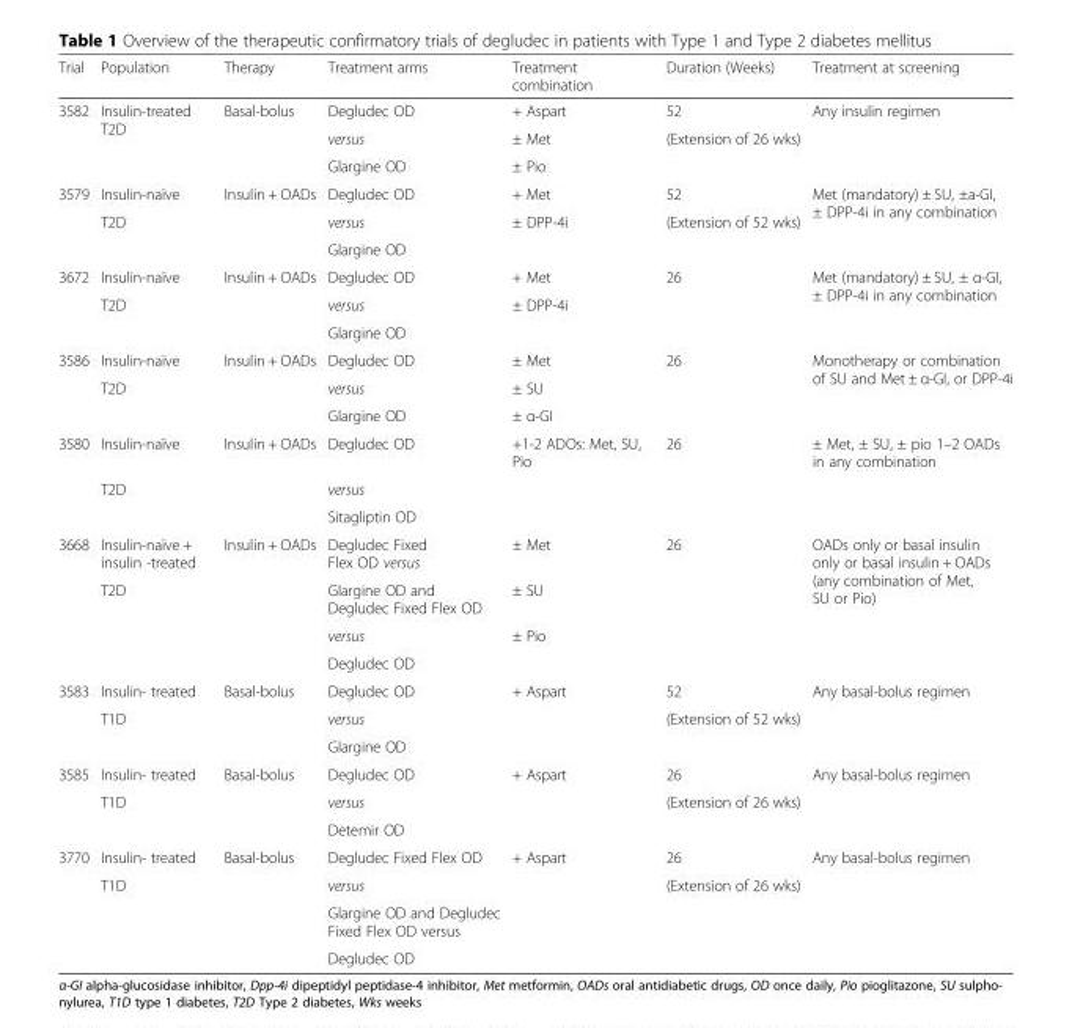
<table><thead><tr><td>Trial</td><td>Population</td><td>Therapy</td><td>Treatment arms</td><td>Treatment combination</td><td>Duration (Weeks)</td><td>Treatment at screening</td></tr></thead><tbody><tr><td rowspan="3">3582</td><td rowspan="3">Insulin-treated T2D</td><td rowspan="3">Basal-bolus</td><td>Degludec OD</td><td>+ Aspart</td><td>52</td><td rowspan="3">Any insulin regimen</td></tr><tr><td>versus</td><td>± Met</td><td>(Extension of 26 wks)</td></tr><tr><td>Glargine OD</td><td>± Pio</td><td></td></tr><tr><td rowspan="3">3579</td><td>Insulin-naïve</td><td>Insulin + OADs</td><td>Degludec OD</td><td>+ Met</td><td>52</td><td rowspan="3">Met (mandatory) ± SU, ±a-GI, ± DPP-4i in any combination</td></tr><tr><td rowspan="2">T2D</td><td rowspan="2"></td><td>versus</td><td rowspan="2">± DPP-4i</td><td rowspan="2">(Extension of 52 wks)</td></tr><tr><td>Glargine OD</td></tr><tr><td rowspan="3">3672</td><td>Insulin-naïve</td><td>Insulin + OADs</td><td>Degludec OD</td><td>+ Met</td><td rowspan="3">26</td><td rowspan="3">Met (mandatory) ± SU, ± α-GI, ± DPP-4i in any combination</td></tr><tr><td rowspan="2">T2D</td><td rowspan="2"></td><td>versus</td><td>± DPP-4i</td></tr><tr><td>Glargine OD</td><td></td></tr><tr><td rowspan="3">3586</td><td>Insulin-naïve</td><td>Insulin + OADs</td><td>Degludec OD</td><td>± Met</td><td rowspan="3">26</td><td rowspan="3">Monotherapy or combination of SU and Met ± α-GI, or DPP-4i</td></tr><tr><td rowspan="2">T2D</td><td rowspan="2"></td><td>versus</td><td>± SU</td></tr><tr><td>Glargine OD</td><td>± α-GI</td></tr><tr><td rowspan="3">3580</td><td>Insulin-naïve</td><td>Insulin + OADs</td><td>Degludec OD</td><td>+1-2 ADOs: Met, SU, Pio</td><td rowspan="3">26</td><td rowspan="3">± Met, ± SU, ± pio 1–2 OADs in any combination</td></tr><tr><td rowspan="2">T2D</td><td rowspan="2"></td><td>versus</td><td rowspan="2"></td></tr><tr><td>Sitagliptin OD</td></tr><tr><td rowspan="4">3668</td><td>Insulin-naïve + insulin -treated</td><td>Insulin + OADs</td><td>Degludec Fixed Flex OD versus</td><td>± Met</td><td rowspan="4">26</td><td rowspan="4">OADs only or basal insulin only or basal insulin + OADs (any combination of Met, SU or Pio)</td></tr><tr><td rowspan="3">T2D</td><td rowspan="3"></td><td>Glargine OD and Degludec Fixed Flex OD</td><td>± SU</td></tr><tr><td>versus</td><td rowspan="2">± Pio</td></tr><tr><td>Degludec OD</td></tr><tr><td rowspan="3">3583</td><td>Insulin- treated</td><td>Basal-bolus</td><td>Degludec OD</td><td>+ Aspart</td><td>52</td><td rowspan="3">Any basal-bolus regimen</td></tr><tr><td rowspan="2">T1D</td><td rowspan="2"></td><td>versus</td><td rowspan="2"></td><td rowspan="2">(Extension of 52 wks)</td></tr><tr><td>Glargine OD</td></tr><tr><td rowspan="3">3585</td><td>Insulin- treated</td><td>Basal-bolus</td><td>Degludec OD</td><td>+ Aspart</td><td>26</td><td rowspan="3">Any basal-bolus regimen</td></tr><tr><td rowspan="2">T1D</td><td rowspan="2"></td><td>versus</td><td rowspan="2"></td><td rowspan="2">(Extension of 26 wks)</td></tr><tr><td>Detemir OD</td></tr><tr><td rowspan="4">3770</td><td>Insulin- treated</td><td>Basal-bolus</td><td>Degludec Fixed Flex OD</td><td>+ Aspart</td><td>26</td><td rowspan="4">Any basal-bolus regimen</td></tr><tr><td rowspan="3">T1D</td><td rowspan="3"></td><td>versus</td><td rowspan="3"></td><td rowspan="3">(Extension of 26 wks)</td></tr><tr><td>Glargine OD and Degludec Fixed Flex OD versus</td></tr><tr><td>Degludec OD</td></tr></tbody></table>